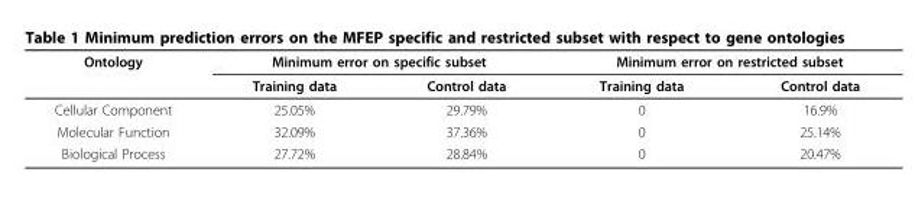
<table><thead><tr><td rowspan="2">Ontology</td><td colspan="2">Minimum error on specific subset</td><td colspan="2">Minimum error on restricted subset</td></tr><tr><td>Training data</td><td>Control data</td><td>Training data</td><td>Control data</td></tr></thead><tbody><tr><td>Cellular Component</td><td>25.05%</td><td>29.79%</td><td>0</td><td>16.9%</td></tr><tr><td>Molecular Function</td><td>32.09%</td><td>37.36%</td><td>0</td><td>25.14%</td></tr><tr><td>Biological Process</td><td>27.72%</td><td>28.84%</td><td>0</td><td>20.47%</td></tr></tbody></table>